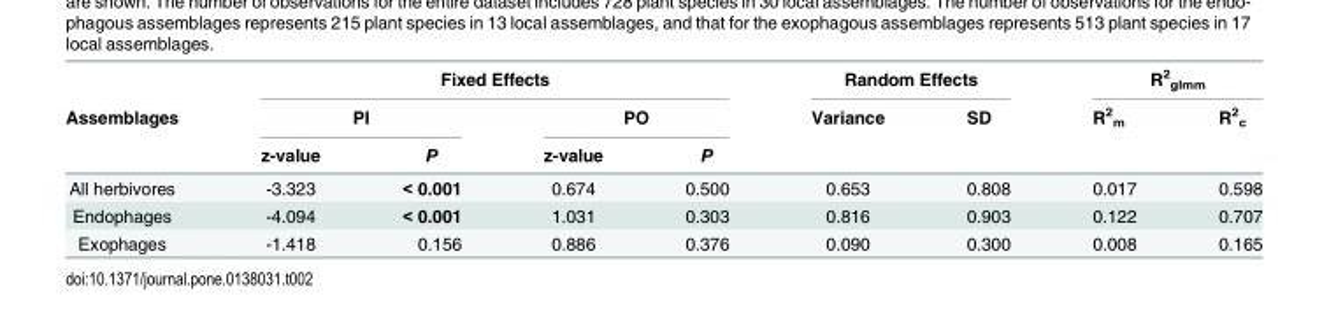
<table><thead><tr><td rowspan="3">Assemblages</td><td colspan="4">Fixed Effects</td><td colspan="2">Random Effects</td><td colspan="2">R<sup>2</sup> <sub>glmm</sub></td></tr><tr><td colspan="2">PI</td><td colspan="2">PO</td><td rowspan="2">Variance</td><td rowspan="2">SD</td><td rowspan="2">R<sup>2</sup> <sub>m</sub></td><td rowspan="2">R<sup>2</sup> <sub>c</sub></td></tr><tr><td>z-value</td><td>P</td><td>z-value</td><td>P</td></tr></thead><tbody><tr><td>All herbivores</td><td>-3.323</td><td>&lt; 0.001</td><td>0.674</td><td>0.500</td><td>0.653</td><td>0.808</td><td>0.017</td><td>0.598</td></tr><tr><td>Endophages</td><td>-4.094</td><td>&lt; 0.001</td><td>1.031</td><td>0.303</td><td>0.816</td><td>0.903</td><td>0.122</td><td>0.707</td></tr><tr><td>Exophages</td><td>-1.418</td><td>0.156</td><td>0.886</td><td>0.376</td><td>0.090</td><td>0.300</td><td>0.008</td><td>0.165</td></tr></tbody></table>